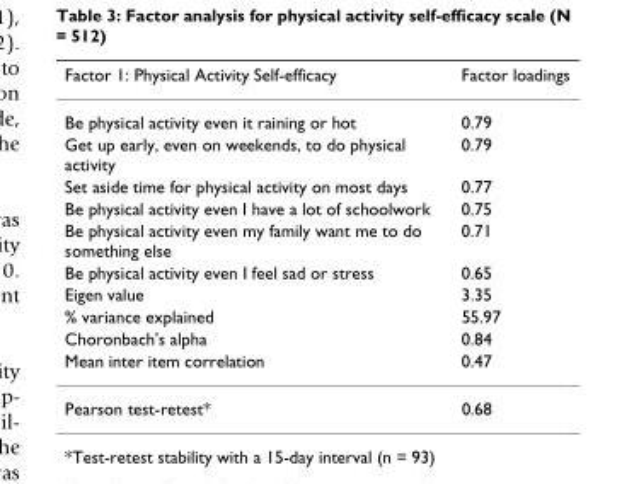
<table><thead><tr><td>Factor 1: Physical Activity Self-efficacy</td><td>Factor loadings</td></tr></thead><tbody><tr><td>Be physical activity even it raining or hot</td><td>0.79</td></tr><tr><td>Get up early, even on weekends, to do physical activity</td><td>0.79</td></tr><tr><td>Set aside time for physical activity on most days</td><td>0.77</td></tr><tr><td>Be physical activity even I have a lot of schoolwork</td><td>0.75</td></tr><tr><td>Be physical activity even my family want me to do something else</td><td>0.71</td></tr><tr><td>Be physical activity even I feel sad or stress</td><td>0.65</td></tr><tr><td>Eigen value</td><td>3.35</td></tr><tr><td>% variance explained</td><td>55.97</td></tr><tr><td>Choronbach&#x27;s alpha</td><td>0.84</td></tr><tr><td>Mean inter item correlation</td><td>0.47</td></tr><tr><td>Pearson test-retest*</td><td>0.68</td></tr></tbody></table>